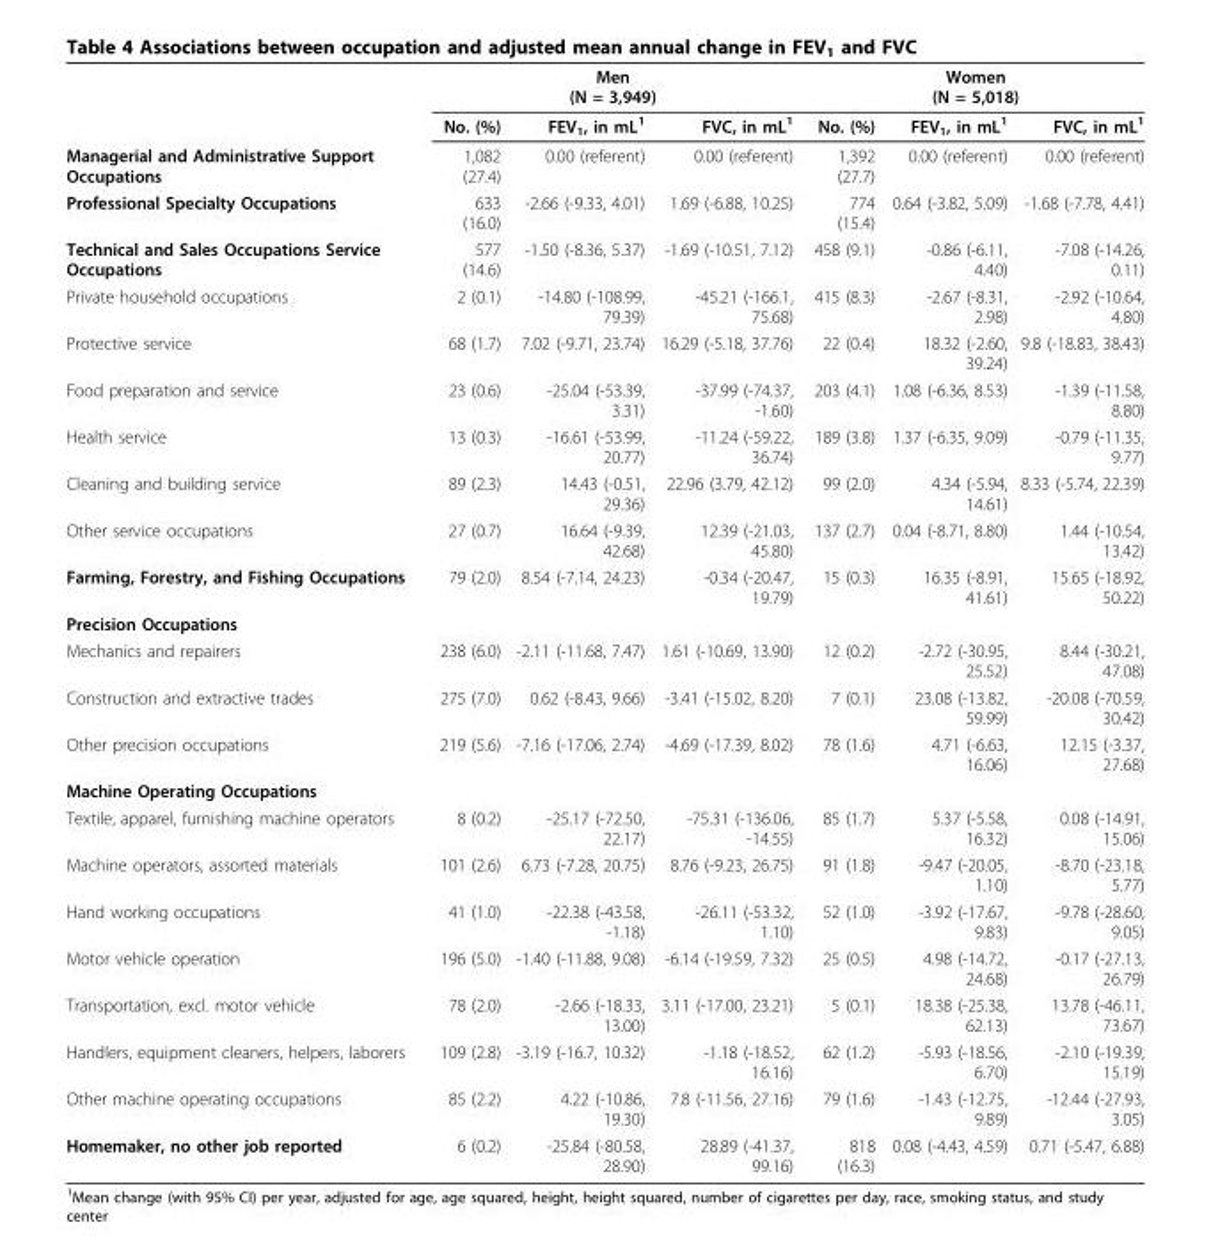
<table><thead><tr><td rowspan="2"></td><td colspan="3">Men (N = 3,949)</td><td colspan="3">Women (N = 5,018)</td></tr><tr><td>No. (%)</td><td>FEV<sub>1</sub>, in mL<sup>1</sup></td><td>FVC, in mL<sup>1</sup></td><td>No. (%)</td><td>FEV<sub>1</sub>, in mL<sup>1</sup></td><td>FVC, in mL<sup>1</sup></td></tr></thead><tbody><tr><td>Managerial and Administrative Support Occupations</td><td>1,082 (27.4)</td><td>0.00 (referent)</td><td>0.00 (referent)</td><td>1,392 (27.7)</td><td>0.00 (referent)</td><td>0.00 (referent)</td></tr><tr><td>Professional Specialty Occupations</td><td>633 (16.0)</td><td>-2.66 (-9.33, 4.01)</td><td>1.69 (-6.88, 10.25)</td><td>774 (15.4)</td><td>0.64 (-3.82, 5.09)</td><td>-1.68 (-7.78, 4.41)</td></tr><tr><td>Technical and Sales Occupations Service Occupations</td><td>577 (14.6)</td><td>-1.50 (-8.36, 5.37)</td><td>-1.69 (-10.51, 7.12)</td><td>458 (9.1)</td><td>-0.86 (-6.11, 4.40)</td><td>-7.08 (-14.26, 0.11)</td></tr><tr><td>Private household occupations</td><td>2 (0.1)</td><td>-14.80 (-108.99, 79.39)</td><td>-45.21 (-166.1, 75.68)</td><td>415 (8.3)</td><td>-2.67 (-8.31, 2.98)</td><td>-2.92 (-10.64, 4.80)</td></tr><tr><td>Protective service</td><td>68 (1.7)</td><td>7.02 (-9.71, 23.74)</td><td>16.29 (-5.18, 37.76)</td><td>22 (0.4)</td><td>18.32 (-2.60, 39.24)</td><td>9.8 (-18.83, 38.43)</td></tr><tr><td>Food preparation and service</td><td>23 (0.6)</td><td>-25.04 (-53.39, 3.31)</td><td>-37.99 (-74.37, -1.60)</td><td>203 (4.1)</td><td>1.08 (-6.36, 8.53)</td><td>-1.39 (-11.58, 8.80)</td></tr><tr><td>Health service</td><td>13 (0.3)</td><td>-16.61 (-53.99, 20.77)</td><td>-11.24 (-59.22, 36.74)</td><td>189 (3.8)</td><td>1.37 (-6.35, 9.09)</td><td>-0.79 (-11.35, 9.77)</td></tr><tr><td>Cleaning and building service</td><td>89 (2.3)</td><td>14.43 (-0.51, 29.36)</td><td>22.96 (3.79, 42.12)</td><td>99 (2.0)</td><td>4.34 (-5.94, 14.61)</td><td>8.33 (-5.74, 22.39)</td></tr><tr><td>Other service occupations</td><td>27 (0.7)</td><td>16.64 (-9.39, 42.68)</td><td>12.39 (-21.03, 45.80)</td><td>137 (2.7)</td><td>0.04 (-8.71, 8.80)</td><td>1.44 (-10.54, 13.42)</td></tr><tr><td>Farming, Forestry, and Fishing Occupations</td><td>79 (2.0)</td><td>8.54 (-7.14, 24.23)</td><td>-0.34 (-20.47, 19.79)</td><td>15 (0.3)</td><td>16.35 (-8.91, 41.61)</td><td>15.65 (-18.92, 50.22)</td></tr><tr><td colspan="7">Precision Occupations</td></tr><tr><td>Mechanics and repairers</td><td>238 (6.0)</td><td>-2.11 (-11.68, 7.47)</td><td>1.61 (-10.69, 13.90)</td><td>12 (0.2)</td><td>-2.72 (-30.95, 25.52)</td><td>8.44 (-30.21, 47.08)</td></tr><tr><td>Construction and extractive trades</td><td>275 (7.0)</td><td>0.62 (-8.43, 9.66)</td><td>-3.41 (-15.02, 8.20)</td><td>7 (0.1)</td><td>23.08 (-13.82, 59.99)</td><td>-20.08 (-70.59, 30.42)</td></tr><tr><td>Other precision occupations</td><td>219 (5.6)</td><td>-7.16 (-17.06, 2.74)</td><td>-4.69 (-17.39, 8.02)</td><td>78 (1.6)</td><td>4.71 (-6.63, 16.06)</td><td>12.15 (-3.37, 27.68)</td></tr><tr><td colspan="7">Machine Operating Occupations</td></tr><tr><td>Textile, apparel, furnishing machine operators</td><td>8 (0.2)</td><td>-25.17 (-72.50, 22.17)</td><td>-75.31 (-136.06, -14.55)</td><td>85 (1.7)</td><td>5.37 (-5.58, 16.32)</td><td>0.08 (-14.91, 15.06)</td></tr><tr><td>Machine operators, assorted materials</td><td>101 (2.6)</td><td>6.73 (-7.28, 20.75)</td><td>8.76 (-9.23, 26.75)</td><td>91 (1.8)</td><td>-9.47 (-20.05, 1.10)</td><td>-8.70 (-23.18, 5.77)</td></tr><tr><td>Hand working occupations</td><td>41 (1.0)</td><td>-22.38 (-43.58, -1.18)</td><td>-26.11 (-53.32, 1.10)</td><td>52 (1.0)</td><td>-3.92 (-17.67, 9.83)</td><td>-9.78 (-28.60, 9.05)</td></tr><tr><td>Motor vehicle operation</td><td>196 (5.0)</td><td>-1.40 (-11.88, 9.08)</td><td>-6.14 (-19.59, 7.32)</td><td>25 (0.5)</td><td>4.98 (-14.72, 24.68)</td><td>-0.17 (-27.13, 26.79)</td></tr><tr><td>Transportation, excl. motor vehicle</td><td>78 (2.0)</td><td>-2.66 (-18.33, 13.00)</td><td>3.11 (-17.00, 23.21)</td><td>5 (0.1)</td><td>18.38 (-25.38, 62.13)</td><td>13.78 (-46.11, 73.67)</td></tr><tr><td>Handlers, equipment cleaners, helpers, laborers</td><td>109 (2.8)</td><td>-3.19 (-16.7, 10.32)</td><td>-1.18 (-18.52, 16.16)</td><td>62 (1.2)</td><td>-5.93 (-18.56, 6.70)</td><td>-2.10 (-19.39, 15.19)</td></tr><tr><td>Other machine operating occupations</td><td>85 (2.2)</td><td>4.22 (-10.86, 19.30)</td><td>7.8 (-11.56, 27.16)</td><td>79 (1.6)</td><td>-1.43 (-12.75, 9.89)</td><td>-12.44 (-27.93, 3.05)</td></tr><tr><td>Homemaker, no other job reported</td><td>6 (0.2)</td><td>-25.84 (-80.58, 28.90)</td><td>28.89 (-41.37, 99.16)</td><td>818 (16.3)</td><td>0.08 (-4.43, 4.59)</td><td>0.71 (-5.47, 6.88)</td></tr></tbody></table>